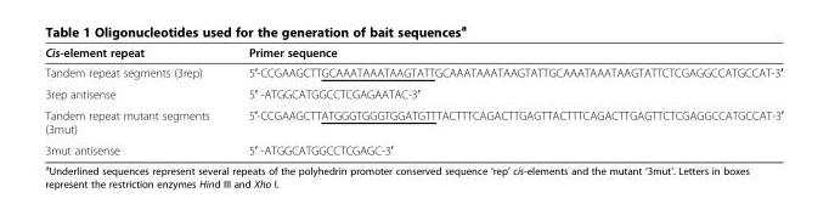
<table><thead><tr><td>Cis-element repeat</td><td>Primer sequence</td></tr></thead><tbody><tr><td>Tandem repeat segments (3rep)</td><td>5′-CCGAAGCTTGCAAATAAATAAGTATTGCAAATAAATAAGTATTGCAAATAAATAAGTATTCTCGAGGCCATGCCAT-3′</td></tr><tr><td>3rep antisense</td><td>5′ -ATGGCATGGCCTCGAGAATAC-3′</td></tr><tr><td>Tandem repeat mutant segments (3mut)</td><td>5′-CCGAAGCTTATGGGTGGGTGGATGTTTACTTTCAGACTTGAGTTACTTTCAGACTTGAGTTCTCGAGGCCATGCCAT-3′</td></tr><tr><td>3mut antisense</td><td>5′ -ATGGCATGGCCTCGAGC-3′</td></tr></tbody></table>